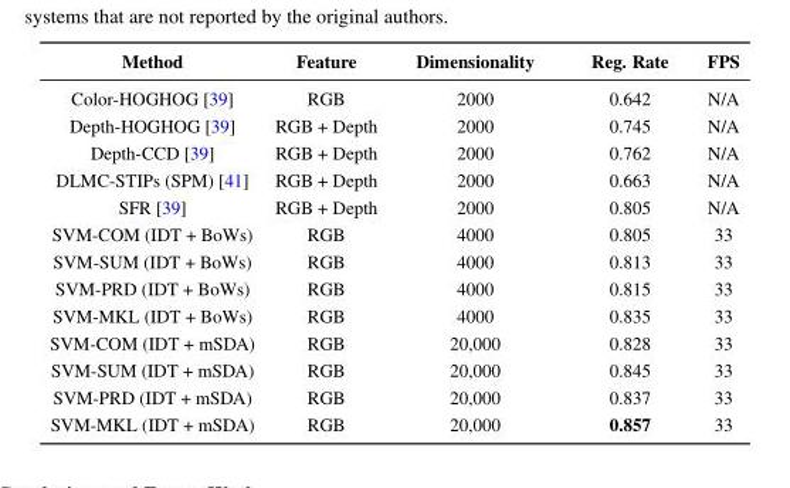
<table><thead><tr><td>Method</td><td>Feature</td><td>Dimensionality</td><td>Reg. Rate</td><td>FPS</td></tr></thead><tbody><tr><td>Color-HOGHOG [39]</td><td>RGB</td><td>2000</td><td>0.642</td><td>N/A</td></tr><tr><td>Depth-HOGHOG [39]</td><td>RGB + Depth</td><td>2000</td><td>0.745</td><td>N/A</td></tr><tr><td>Depth-CCD [39]</td><td>RGB + Depth</td><td>2000</td><td>0.762</td><td>N/A</td></tr><tr><td>DLMC-STIPs (SPM) [41]</td><td>RGB + Depth</td><td>2000</td><td>0.663</td><td>N/A</td></tr><tr><td>SFR [39]</td><td>RGB + Depth</td><td>2000</td><td>0.805</td><td>N/A</td></tr><tr><td>SVM-COM (IDT + BoWs)</td><td>RGB</td><td>4000</td><td>0.805</td><td>33</td></tr><tr><td>SVM-SUM (IDT + BoWs)</td><td>RGB</td><td>4000</td><td>0.813</td><td>33</td></tr><tr><td>SVM-PRD (IDT + BoWs)</td><td>RGB</td><td>4000</td><td>0.815</td><td>33</td></tr><tr><td>SVM-MKL (IDT + BoWs)</td><td>RGB</td><td>4000</td><td>0.835</td><td>33</td></tr><tr><td>SVM-COM (IDT + mSDA)</td><td>RGB</td><td>20,000</td><td>0.828</td><td>33</td></tr><tr><td>SVM-SUM (IDT + mSDA)</td><td>RGB</td><td>20,000</td><td>0.845</td><td>33</td></tr><tr><td>SVM-PRD (IDT + mSDA)</td><td>RGB</td><td>20,000</td><td>0.837</td><td>33</td></tr><tr><td>SVM-MKL (IDT + mSDA)</td><td>RGB</td><td>20,000</td><td>0.857</td><td>33</td></tr></tbody></table>